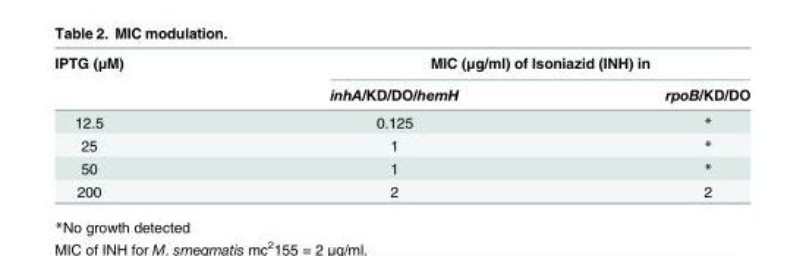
<table><thead><tr><td rowspan="2">IPTG (μM)</td><td colspan="2">MIC (μg/ml) of Isoniazid (INH) in</td></tr><tr><td>inhA/KD/DO/hemH</td><td>rpoB/KD/DO</td></tr></thead><tbody><tr><td>12.5</td><td>0.125</td><td>*</td></tr><tr><td>25</td><td>1</td><td>*</td></tr><tr><td>50</td><td>1</td><td>*</td></tr><tr><td>200</td><td>2</td><td>2</td></tr></tbody></table>